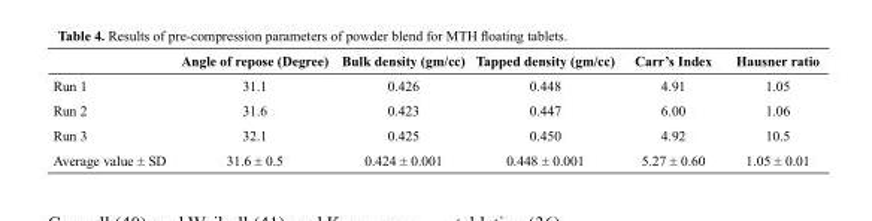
<table><thead><tr><td></td><td>Angle of repose (Degree)</td><td>Bulk density (gm/cc)</td><td>Tapped density (gm/cc)</td><td>Carr’s Index</td><td>Hausner ratio</td></tr></thead><tbody><tr><td>Run 1</td><td>31.1</td><td>0.426</td><td>0.448</td><td>4.91</td><td>1.05</td></tr><tr><td>Run 2</td><td>31.6</td><td>0.423</td><td>0.447</td><td>6.00</td><td>1.06</td></tr><tr><td>Run 3</td><td>32.1</td><td>0.425</td><td>0.450</td><td>4.92</td><td>10.5</td></tr><tr><td>Average value ± SD</td><td>31.6 ± 0.5</td><td>0.424 ± 0.001</td><td>0.448 ± 0.001</td><td>5.27 ± 0.60</td><td>1.05 ± 0.01</td></tr></tbody></table>